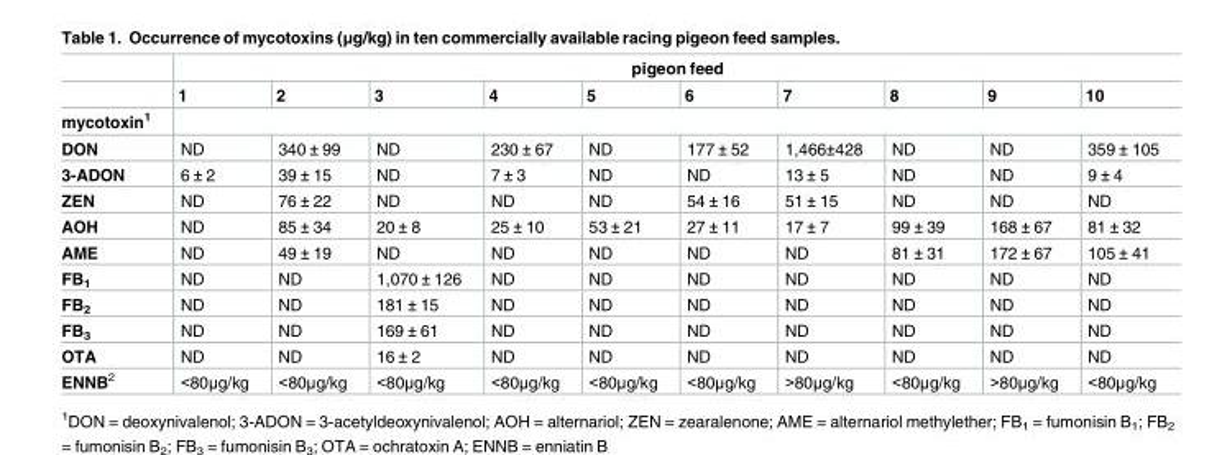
<table><thead><tr><td rowspan="3">mycotoxin<sup>1</sup></td><td colspan="10">pigeon feed</td></tr><tr><td rowspan="2">1</td><td rowspan="2">2</td><td rowspan="2">3</td><td rowspan="2">4</td><td rowspan="2">5</td><td rowspan="2">6</td><td rowspan="2">7</td><td rowspan="2">8</td><td rowspan="2">9</td><td rowspan="2">10</td></tr><tr></tr></thead><tbody><tr><td>DON</td><td>ND</td><td>340 ± 99</td><td>ND</td><td>230 ± 67</td><td>ND</td><td>177 ± 52</td><td>1,466±428</td><td>ND</td><td>ND</td><td>359 ± 105</td></tr><tr><td>3-ADON</td><td>6 ± 2</td><td>39 ± 15</td><td>ND</td><td>7 ± 3</td><td>ND</td><td>ND</td><td>13 ± 5</td><td>ND</td><td>ND</td><td>9 ± 4</td></tr><tr><td>ZEN</td><td>ND</td><td>76 ± 22</td><td>ND</td><td>ND</td><td>ND</td><td>54 ± 16</td><td>51 ± 15</td><td>ND</td><td>ND</td><td>ND</td></tr><tr><td>AOH</td><td>ND</td><td>85 ± 34</td><td>20 ± 8</td><td>25 ± 10</td><td>53 ± 21</td><td>27 ± 11</td><td>17 ± 7</td><td>99 ± 39</td><td>168 ± 67</td><td>81 ± 32</td></tr><tr><td>AME</td><td>ND</td><td>49 ± 19</td><td>ND</td><td>ND</td><td>ND</td><td>ND</td><td>ND</td><td>81 ± 31</td><td>172 ± 67</td><td>105 ± 41</td></tr><tr><td>FB<sub>1</sub></td><td>ND</td><td>ND</td><td>1,070 ± 126</td><td>ND</td><td>ND</td><td>ND</td><td>ND</td><td>ND</td><td>ND</td><td>ND</td></tr><tr><td>FB<sub>2</sub></td><td>ND</td><td>ND</td><td>181 ± 15</td><td>ND</td><td>ND</td><td>ND</td><td>ND</td><td>ND</td><td>ND</td><td>ND</td></tr><tr><td>FB<sub>3</sub></td><td>ND</td><td>ND</td><td>169 ± 61</td><td>ND</td><td>ND</td><td>ND</td><td>ND</td><td>ND</td><td>ND</td><td>ND</td></tr><tr><td>OTA</td><td>ND</td><td>ND</td><td>16 ± 2</td><td>ND</td><td>ND</td><td>ND</td><td>ND</td><td>ND</td><td>ND</td><td>ND</td></tr><tr><td>ENNB<sup>2</sup></td><td>&lt;80μg/kg</td><td>&lt;80μg/kg</td><td>&lt;80μg/kg</td><td>&lt;80μg/kg</td><td>&lt;80μg/kg</td><td>&lt;80μg/kg</td><td>&gt;80μg/kg</td><td>&lt;80μg/kg</td><td>&gt;80μg/kg</td><td>&lt;80μg/kg</td></tr></tbody></table>